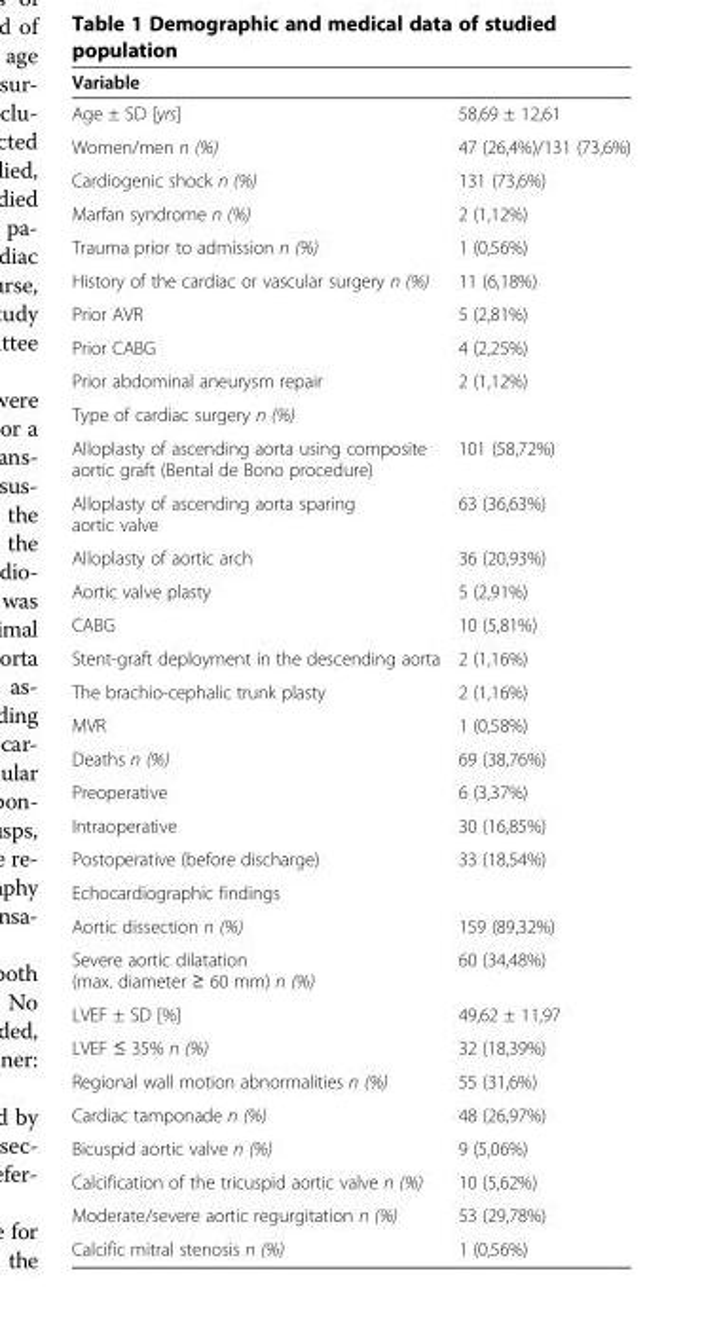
<table><thead><tr><td>Variable</td><td></td></tr></thead><tbody><tr><td>Age ± SD [yrs]</td><td>58,69 ± 12,61</td></tr><tr><td>Women/men n (%)</td><td>47 (26,4%)/131 (73,6%)</td></tr><tr><td>Cardiogenic shock n (%)</td><td>131 (73,6%)</td></tr><tr><td>Marfan syndrome n (%)</td><td>2 (1,12%)</td></tr><tr><td>Trauma prior to admission n (%)</td><td>1 (0,56%)</td></tr><tr><td>History of the cardiac or vascular surgery n (%)</td><td>11 (6,18%)</td></tr><tr><td>Prior AVR</td><td>5 (2,81%)</td></tr><tr><td>Prior CABG</td><td>4 (2,25%)</td></tr><tr><td>Prior abdominal aneurysm repair</td><td>2 (1,12%)</td></tr><tr><td colspan="2">Type of cardiac surgery n (%)</td></tr><tr><td>Alloplasty of ascending aorta using composite aortic graft (Bental de Bono procedure)</td><td>101 (58,72%)</td></tr><tr><td>Alloplasty of ascending aorta sparing aortic valve</td><td>63 (36,63%)</td></tr><tr><td>Alloplasty of aortic arch</td><td>36 (20,93%)</td></tr><tr><td>Aortic valve plasty</td><td>5 (2,91%)</td></tr><tr><td>CABG</td><td>10 (5,81%)</td></tr><tr><td>Stent-graft deployment in the descending aorta</td><td>2 (1,16%)</td></tr><tr><td>The brachio-cephalic trunk plasty</td><td>2 (1,16%)</td></tr><tr><td>MVR</td><td>1 (0,58%)</td></tr><tr><td>Deaths n (%)</td><td>69 (38,76%)</td></tr><tr><td>Preoperative</td><td>6 (3,37%)</td></tr><tr><td>Intraoperative</td><td>30 (16,85%)</td></tr><tr><td>Postoperative (before discharge)</td><td>33 (18,54%)</td></tr><tr><td colspan="2">Echocardiographic findings</td></tr><tr><td>Aortic dissection n (%)</td><td>159 (89,32%)</td></tr><tr><td>Severe aortic dilatation (max. diameter ≥ 60 mm) n (%)</td><td>60 (34,48%)</td></tr><tr><td>LVEF ± SD [%]</td><td>49,62 ± 11,97</td></tr><tr><td>LVEF ≤ 35% n (%)</td><td>32 (18,39%)</td></tr><tr><td>Regional wall motion abnormalities n (%)</td><td>55 (31,6%)</td></tr><tr><td>Cardiac tamponade n (%)</td><td>48 (26,97%)</td></tr><tr><td>Bicuspid aortic valve n (%)</td><td>9 (5,06%)</td></tr><tr><td>Calcification of the tricuspid aortic valve n (%)</td><td>10 (5,62%)</td></tr><tr><td>Moderate/severe aortic regurgitation n (%)</td><td>53 (29,78%)</td></tr><tr><td>Calcific mitral stenosis n (%)</td><td>1 (0,56%)</td></tr></tbody></table>